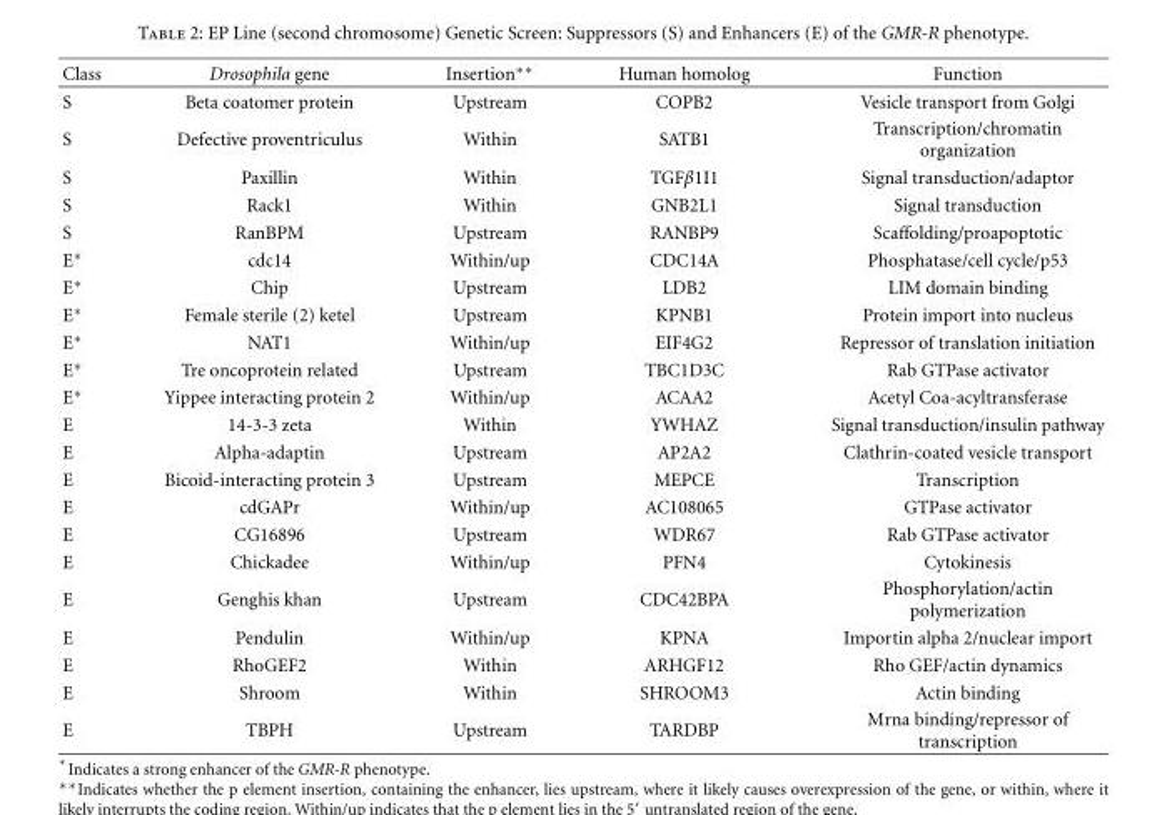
<table><thead><tr><td>Class</td><td>Drosophila gene</td><td>Insertion∗∗</td><td>Human homolog</td><td>Function</td></tr></thead><tbody><tr><td>S</td><td>Beta coatomer protein</td><td>Upstream</td><td>COPB2</td><td>Vesicle transport from Golgi</td></tr><tr><td>S</td><td>Defective proventriculus</td><td>Within</td><td>SATB1</td><td>Transcription/chromatin organization</td></tr><tr><td>S</td><td>Paxillin</td><td>Within</td><td>TGFβ1I1</td><td>Signal transduction/adaptor</td></tr><tr><td>S</td><td>Rack1</td><td>Within</td><td>GNB2L1</td><td>Signal transduction</td></tr><tr><td>S</td><td>RanBPM</td><td>Upstream</td><td>RANBP9</td><td>Scaffolding/proapoptotic</td></tr><tr><td>E∗</td><td>cdc14</td><td>Within/up</td><td>CDC14A</td><td>Phosphatase/cell cycle/p53</td></tr><tr><td>E∗</td><td>Chip</td><td>Upstream</td><td>LDB2</td><td>LIM domain binding</td></tr><tr><td>E∗</td><td>Female sterile (2) ketel</td><td>Upstream</td><td>KPNB1</td><td>Protein import into nucleus</td></tr><tr><td>E∗</td><td>NAT1</td><td>Within/up</td><td>EIF4G2</td><td>Repressor of translation initiation</td></tr><tr><td>E∗</td><td>Tre oncoprotein related</td><td>Upstream</td><td>TBC1D3C</td><td>Rab GTPase activator</td></tr><tr><td>E∗</td><td>Yippee interacting protein 2</td><td>Within/up</td><td>ACAA2</td><td>Acetyl Coa-acyltransferase</td></tr><tr><td>E</td><td>14-3-3 zeta</td><td>Within</td><td>YWHAZ</td><td>Signal transduction/insulin pathway</td></tr><tr><td>E</td><td>Alpha-adaptin</td><td>Upstream</td><td>AP2A2</td><td>Clathrin-coated vesicle transport</td></tr><tr><td>E</td><td>Bicoid-interacting protein 3</td><td>Upstream</td><td>MEPCE</td><td>Transcription</td></tr><tr><td>E</td><td>cdGAPr</td><td>Within/up</td><td>AC108065</td><td>GTPase activator</td></tr><tr><td>E</td><td>CG16896</td><td>Upstream</td><td>WDR67</td><td>Rab GTPase activator</td></tr><tr><td>E</td><td>Chickadee</td><td>Within/up</td><td>PFN4</td><td>Cytokinesis</td></tr><tr><td>E</td><td>Genghis khan</td><td>Upstream</td><td>CDC42BPA</td><td>Phosphorylation/actin polymerization</td></tr><tr><td>E</td><td>Pendulin</td><td>Within/up</td><td>KPNA</td><td>Importin alpha 2/nuclear import</td></tr><tr><td>E</td><td>RhoGEF2</td><td>Within</td><td>ARHGF12</td><td>Rho GEF/actin dynamics</td></tr><tr><td>E</td><td>Shroom</td><td>Within</td><td>SHROOM3</td><td>Actin binding</td></tr><tr><td>E</td><td>TBPH</td><td>Upstream</td><td>TARDBP</td><td>Mrna binding/repressor of transcription</td></tr></tbody></table>